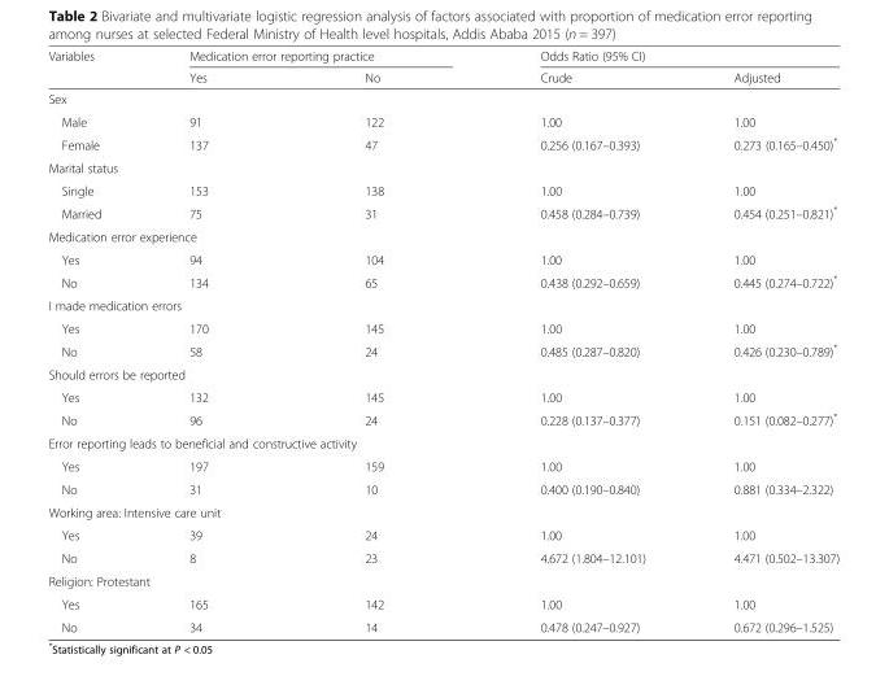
<table><thead><tr><td rowspan="2">Variables</td><td colspan="2">Medication error reporting practice</td><td colspan="2">Odds Ratio (95% CI)</td></tr><tr><td>Yes</td><td>No</td><td>Crude</td><td>Adjusted</td></tr></thead><tbody><tr><td colspan="5">Sex</td></tr><tr><td>Male</td><td>91</td><td>122</td><td>1.00</td><td>1.00</td></tr><tr><td>Female</td><td>137</td><td>47</td><td>0.256 (0.167–0.393)</td><td>0.273 (0.165–0.450)*</td></tr><tr><td colspan="5">Marital status</td></tr><tr><td>Single</td><td>153</td><td>138</td><td>1.00</td><td>1.00</td></tr><tr><td>Married</td><td>75</td><td>31</td><td>0.458 (0.284–0.739)</td><td>0.454 (0.251–0.821)*</td></tr><tr><td colspan="5">Medication error experience</td></tr><tr><td>Yes</td><td>94</td><td>104</td><td>1.00</td><td>1.00</td></tr><tr><td>No</td><td>134</td><td>65</td><td>0.438 (0.292–0.659)</td><td>0.445 (0.274–0.722)*</td></tr><tr><td colspan="5">I made medication errors</td></tr><tr><td>Yes</td><td>170</td><td>145</td><td>1.00</td><td>1.00</td></tr><tr><td>No</td><td>58</td><td>24</td><td>0.485 (0.287–0.820)</td><td>0.426 (0.230–0.789)*</td></tr><tr><td colspan="5">Should errors be reported</td></tr><tr><td>Yes</td><td>132</td><td>145</td><td>1.00</td><td>1.00</td></tr><tr><td>No</td><td>96</td><td>24</td><td>0.228 (0.137–0.377)</td><td>0.151 (0.082–0.277)*</td></tr><tr><td colspan="5">Error reporting leads to beneficial and constructive activity</td></tr><tr><td>Yes</td><td>197</td><td>159</td><td>1.00</td><td>1.00</td></tr><tr><td>No</td><td>31</td><td>10</td><td>0.400 (0.190–0.840)</td><td>0.881 (0.334–2.322)</td></tr><tr><td colspan="5">Working area: Intensive care unit</td></tr><tr><td>Yes</td><td>39</td><td>24</td><td>1.00</td><td>1.00</td></tr><tr><td>No</td><td>8</td><td>23</td><td>4.672 (1.804–12.101)</td><td>4.471 (0.502–13.307)</td></tr><tr><td colspan="5">Religion: Protestant</td></tr><tr><td>Yes</td><td>165</td><td>142</td><td>1.00</td><td>1.00</td></tr><tr><td>No</td><td>34</td><td>14</td><td>0.478 (0.247–0.927)</td><td>0.672 (0.296–1.525)</td></tr></tbody></table>